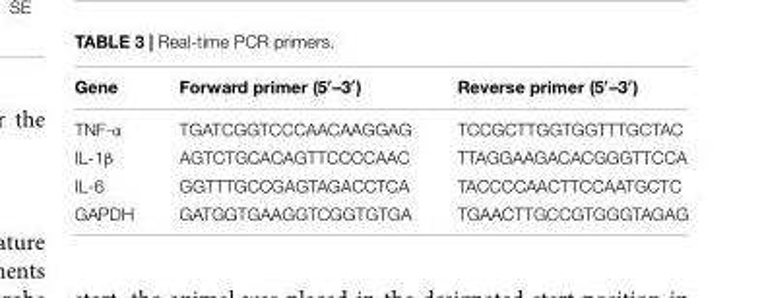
<table><thead><tr><td>Gene</td><td>Forward primer (5′–3′)</td><td>Reverse primer (5′–3′)</td></tr></thead><tbody><tr><td>TNF-α</td><td>TGATCGGTCCCAACAAGGAG</td><td>TCCGCTTGGTGGTTTGCTAC</td></tr><tr><td>IL-1β</td><td>AGTCTGCACAGTTCCCCAAC</td><td>TTAGGAAGACACGGGTTCCA</td></tr><tr><td>IL-6</td><td>GGTTTGCCGAGTAGACCTCA</td><td>TACCCCAACTTCCAATGCTC</td></tr><tr><td>GAPDH</td><td>GATGGTGAAGGTCGGTGTGA</td><td>TGAACTTGCCGTGGGTAGAG</td></tr></tbody></table>